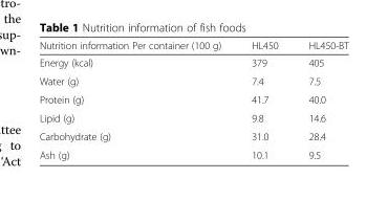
<table><thead><tr><td>Nutrition information Per container (100 g)</td><td>HL450</td><td>HL450-BT</td></tr></thead><tbody><tr><td>Energy (kcal)</td><td>379</td><td>405</td></tr><tr><td>Water (g)</td><td>7.4</td><td>7.5</td></tr><tr><td>Protein (g)</td><td>41.7</td><td>40.0</td></tr><tr><td>Lipid (g)</td><td>9.8</td><td>14.6</td></tr><tr><td>Carbohydrate (g)</td><td>31.0</td><td>28.4</td></tr><tr><td>Ash (g)</td><td>10.1</td><td>9.5</td></tr></tbody></table>